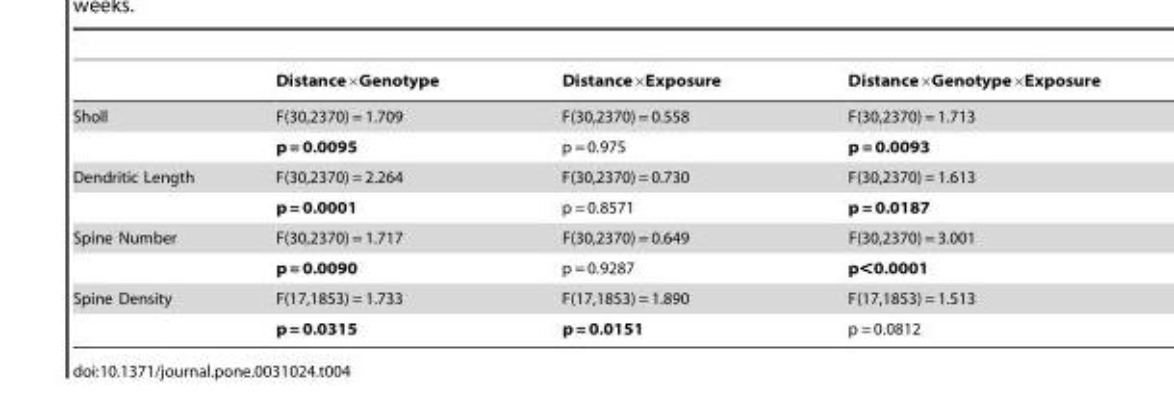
<table><thead><tr><td></td><td>Distance×Genotype</td><td>Distance×Exposure</td><td>Distance×Genotype×Exposure</td></tr></thead><tbody><tr><td rowspan="2">Sholl</td><td>F(30,2370) = 1.709</td><td>F(30,2370) = 0.558</td><td>F(30,2370) = 1.713</td></tr><tr><td>p = 0.0095</td><td>p = 0.975</td><td>p = 0.0093</td></tr><tr><td rowspan="2">Dendritic Length</td><td>F(30,2370) = 2.264</td><td>F(30,2370) = 0.730</td><td>F(30,2370) = 1.613</td></tr><tr><td>p = 0.0001</td><td>p = 0.8571</td><td>p = 0.0187</td></tr><tr><td rowspan="2">Spine Number</td><td>F(30,2370) = 1.717</td><td>F(30,2370) = 0.649</td><td>F(30,2370) = 3.001</td></tr><tr><td>p = 0.0090</td><td>p = 0.9287</td><td>p&lt;0.0001</td></tr><tr><td rowspan="2">Spine Density</td><td>F(17,1853) = 1.733</td><td>F(17,1853) = 1.890</td><td>F(17,1853) = 1.513</td></tr><tr><td>p = 0.0315</td><td>p = 0.0151</td><td>p = 0.0812</td></tr></tbody></table>